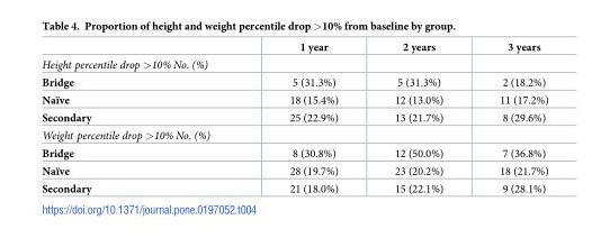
<table><thead><tr><td></td><td>1 year</td><td>2 years</td><td>3 years</td></tr></thead><tbody><tr><td colspan="4">Height percentile drop &gt;10% No. (%)</td></tr><tr><td>Bridge</td><td>5 (31.3%)</td><td>5 (31.3%)</td><td>2 (18.2%)</td></tr><tr><td>Naïve</td><td>18 (15.4%)</td><td>12 (13.0%)</td><td>11 (17.2%)</td></tr><tr><td>Secondary</td><td>25 (22.9%)</td><td>13 (21.7%)</td><td>8 (29.6%)</td></tr><tr><td colspan="4">Weight percentile drop &gt;10% No. (%)</td></tr><tr><td>Bridge</td><td>8 (30.8%)</td><td>12 (50.0%)</td><td>7 (36.8%)</td></tr><tr><td>Naïve</td><td>28 (19.7%)</td><td>23 (20.2%)</td><td>18 (21.7%)</td></tr><tr><td>Secondary</td><td>21 (18.0%)</td><td>15 (22.1%)</td><td>9 (28.1%)</td></tr></tbody></table>